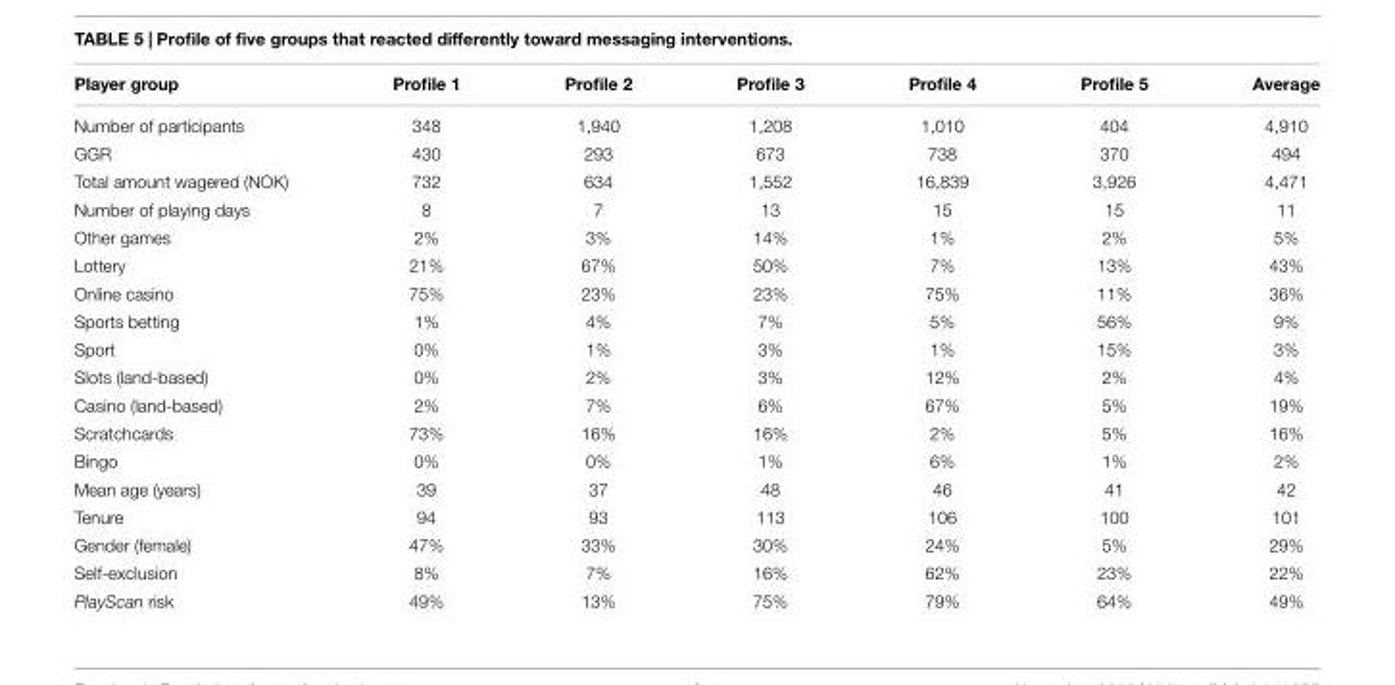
<table><thead><tr><td>Player group</td><td>Profile 1</td><td>Profile 2</td><td>Profile 3</td><td>Profile 4</td><td>Profile 5</td><td>Average</td></tr></thead><tbody><tr><td>Number of participants</td><td>348</td><td>1,940</td><td>1,208</td><td>1,010</td><td>404</td><td>4,910</td></tr><tr><td>GGR</td><td>430</td><td>293</td><td>673</td><td>738</td><td>370</td><td>494</td></tr><tr><td>Total amount wagered (NOK)</td><td>732</td><td>634</td><td>1,552</td><td>16,839</td><td>3,926</td><td>4,471</td></tr><tr><td>Number of playing days</td><td>8</td><td>7</td><td>13</td><td>15</td><td>15</td><td>11</td></tr><tr><td>Other games</td><td>2%</td><td>3%</td><td>14%</td><td>1%</td><td>2%</td><td>5%</td></tr><tr><td>Lottery</td><td>21%</td><td>67%</td><td>50%</td><td>7%</td><td>13%</td><td>43%</td></tr><tr><td>Online casino</td><td>75%</td><td>23%</td><td>23%</td><td>75%</td><td>11%</td><td>36%</td></tr><tr><td>Sports betting</td><td>1%</td><td>4%</td><td>7%</td><td>5%</td><td>56%</td><td>9%</td></tr><tr><td>Sport</td><td>0%</td><td>1%</td><td>3%</td><td>1%</td><td>15%</td><td>3%</td></tr><tr><td>Slots (land-based)</td><td>0%</td><td>2%</td><td>3%</td><td>12%</td><td>2%</td><td>4%</td></tr><tr><td>Casino (land-based)</td><td>2%</td><td>7%</td><td>6%</td><td>67%</td><td>5%</td><td>19%</td></tr><tr><td>Scratchcards</td><td>73%</td><td>16%</td><td>16%</td><td>2%</td><td>5%</td><td>16%</td></tr><tr><td>Bingo</td><td>0%</td><td>0%</td><td>1%</td><td>6%</td><td>1%</td><td>2%</td></tr><tr><td>Mean age (years)</td><td>39</td><td>37</td><td>48</td><td>46</td><td>41</td><td>42</td></tr><tr><td>Tenure</td><td>94</td><td>93</td><td>113</td><td>106</td><td>100</td><td>101</td></tr><tr><td>Gender (female)</td><td>47%</td><td>33%</td><td>30%</td><td>24%</td><td>5%</td><td>29%</td></tr><tr><td>Self-exclusion</td><td>8%</td><td>7%</td><td>16%</td><td>62%</td><td>23%</td><td>22%</td></tr><tr><td>PlayScan risk</td><td>49%</td><td>13%</td><td>75%</td><td>79%</td><td>64%</td><td>49%</td></tr></tbody></table>